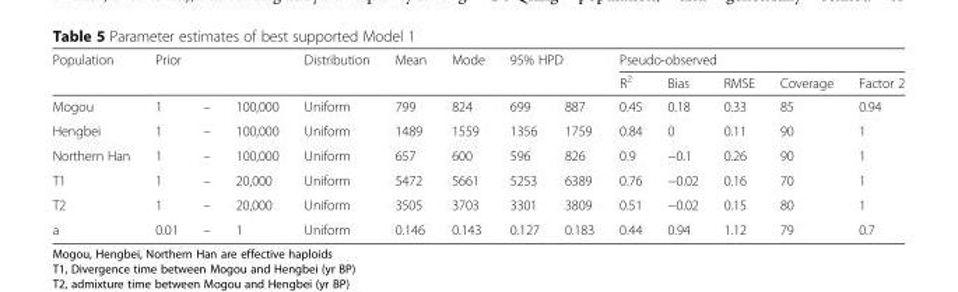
<table><thead><tr><td rowspan="3">Population Mogou</td><td rowspan="2" colspan="3">Prior</td><td rowspan="3">Distribution Uniform</td><td rowspan="3">Mean 799</td><td rowspan="3">Mode 824</td><td rowspan="2" colspan="2">95% HPD</td><td colspan="5">Pseudo-observed</td></tr><tr><td rowspan="2">R<sup>2</sup> 0.45</td><td rowspan="2">Bias 0.18</td><td rowspan="2">RMSE 0.33</td><td rowspan="2">Coverage 85</td><td rowspan="2">Factor 2 0.94</td></tr><tr><td>1</td><td>–</td><td>100,000</td><td>699</td><td>887</td></tr></thead><tbody><tr><td>Hengbei</td><td>1</td><td>–</td><td>100,000</td><td>Uniform</td><td>1489</td><td>1559</td><td>1356</td><td>1759</td><td>0.84</td><td>0</td><td>0.11</td><td>90</td><td>1</td></tr><tr><td>Northern Han</td><td>1</td><td>–</td><td>100,000</td><td>Uniform</td><td>657</td><td>600</td><td>596</td><td>826</td><td>0.9</td><td>−0.1</td><td>0.26</td><td>90</td><td>1</td></tr><tr><td>T1</td><td>1</td><td>–</td><td>20,000</td><td>Uniform</td><td>5472</td><td>5661</td><td>5253</td><td>6389</td><td>0.76</td><td>−0.02</td><td>0.16</td><td>70</td><td>1</td></tr><tr><td>T2</td><td>1</td><td>–</td><td>20,000</td><td>Uniform</td><td>3505</td><td>3703</td><td>3301</td><td>3809</td><td>0.51</td><td>−0.02</td><td>0.15</td><td>80</td><td>1</td></tr><tr><td>a</td><td>0.01</td><td>–</td><td>1</td><td>Uniform</td><td>0.146</td><td>0.143</td><td>0.127</td><td>0.183</td><td>0.44</td><td>0.94</td><td>1.12</td><td>79</td><td>0.7</td></tr></tbody></table>